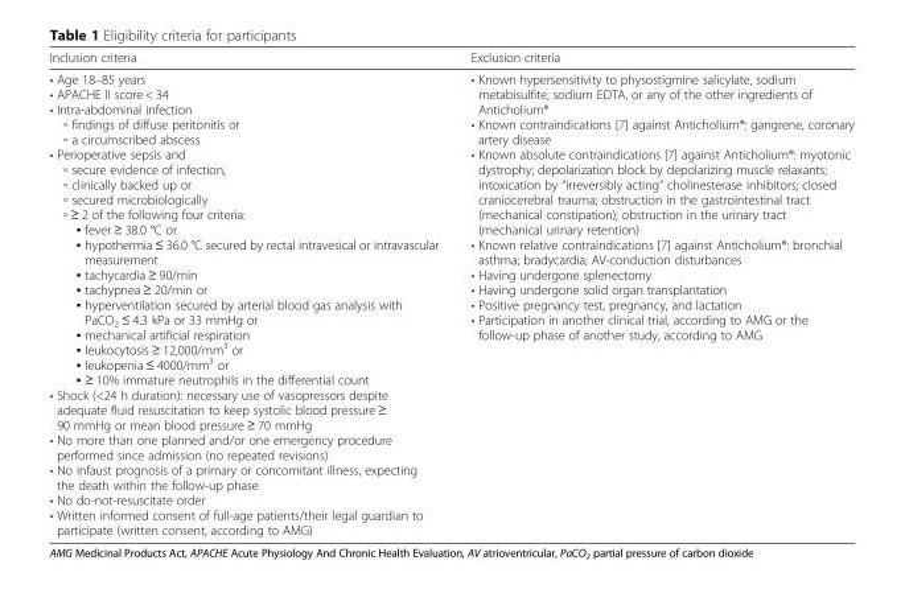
<table><thead><tr><td>Inclusion criteria</td><td>Exclusion criteria</td></tr></thead><tbody><tr><td>• Age 18–85 years • APACHE II score &lt; 34 • Intra-abdominal infection ◦ findings of diffuse peritonitis or ◦ a circumscribed abscess • Perioperative sepsis and ◦ secure evidence of infection, ◦ clinically backed up or ◦ secured microbiologically ◦ ≥ 2 of the following four criteria: ▪ fever ≥ 38.0 °C or ▪ hypothermia ≤ 36.0 °C secured by rectal intravesical or intravascular measurement ▪ tachycardia ≥ 90/min ▪ tachypnea ≥ 20/min or ▪ hyperventilation secured by arterial blood gas analysis with PaCO<sub>2</sub> ≤ 4.3 kPa or 33 mmHg or ▪ mechanical artificial respiration ▪ leukocytosis ≥ 12,000/mm<sup>3</sup> or ▪ leukopenia ≤ 4000/mm<sup>3</sup> or ▪ ≥ 10% immature neutrophils in the differential count • Shock (&lt;24 h duration): necessary use of vasopressors despite adequate fluid resuscitation to keep systolic blood pressure ≥ 90 mmHg or mean blood pressure ≥ 70 mmHg • No more than one planned and/or one emergency procedure performed since admission (no repeated revisions) • No infaust prognosis of a primary or concomitant illness, expecting the death within the follow-up phase • No do-not-resuscitate order • Written informed consent of full-age patients/their legal guardian to participate (written consent, according to AMG)</td><td>• Known hypersensitivity to physostigmine salicylate, sodium metabisulfite, sodium EDTA, or any of the other ingredients of Anticholium® • Known contraindications [7] against Anticholium®: gangrene, coronary artery disease • Known absolute contraindications [7] against Anticholium®: myotonic dystrophy; depolarization block by depolarizing muscle relaxants; intoxication by “irreversibly acting” cholinesterase inhibitors; closed craniocerebral trauma; obstruction in the gastrointestinal tract (mechanical constipation); obstruction in the urinary tract (mechanical urinary retention) • Known relative contraindications [7] against Anticholium®: bronchial asthma; bradycardia; AV-conduction disturbances • Having undergone splenectomy • Having undergone solid organ transplantation • Positive pregnancy test, pregnancy, and lactation • Participation in another clinical trial, according to AMG or the follow-up phase of another study, according to AMG</td></tr></tbody></table>